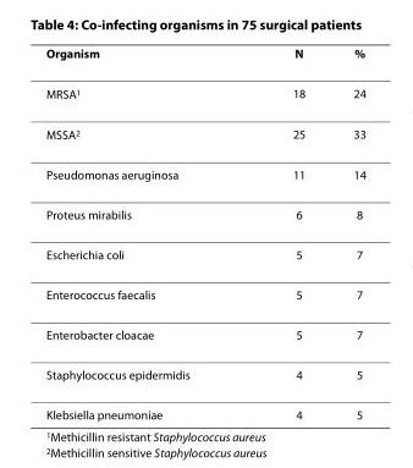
<table><thead><tr><td>Organism</td><td>N</td><td>%</td></tr></thead><tbody><tr><td>MRSA<sup>1</sup></td><td>18</td><td>24</td></tr><tr><td>MSSA<sup>2</sup></td><td>25</td><td>33</td></tr><tr><td>Pseudomonas aeruginosa</td><td>11</td><td>14</td></tr><tr><td>Proteus mirabilis</td><td>6</td><td>8</td></tr><tr><td>Escherichia coli</td><td>5</td><td>7</td></tr><tr><td>Enterococcus faecalis</td><td>5</td><td>7</td></tr><tr><td>Enterobacter cloacae</td><td>5</td><td>7</td></tr><tr><td>Staphylococcus epidermidis</td><td>4</td><td>5</td></tr><tr><td>Klebsiella pneumoniae</td><td>4</td><td>5</td></tr></tbody></table>